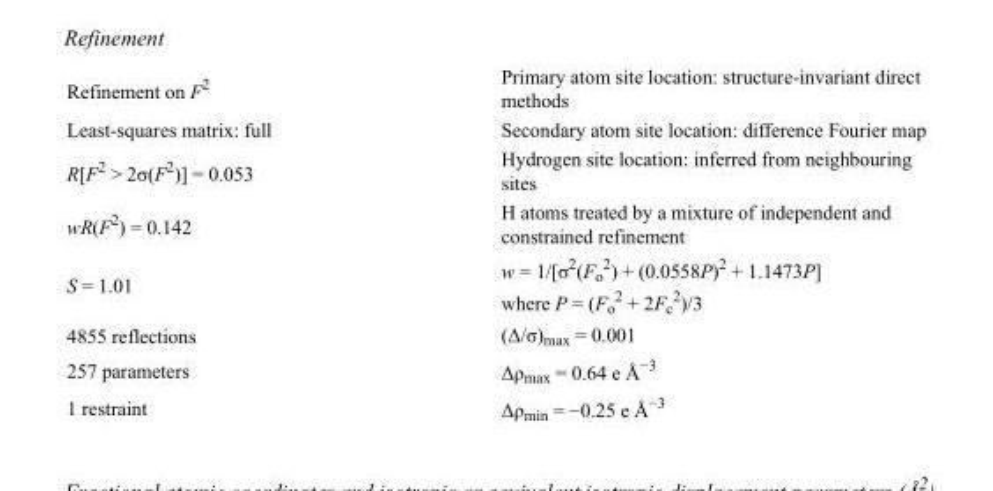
<table><tbody><tr><td>Refinement on F<sup>2</sup></td><td>Primary atom site location: structure-invariant direct methods</td></tr><tr><td>Least-squares matrix: full</td><td>Secondary atom site location: difference Fourier map</td></tr><tr><td>R[F<sup>2</sup> &gt; 2σ(F<sup>2</sup>)] = 0.053</td><td>Hydrogen site location: inferred from neighbouring sites</td></tr><tr><td>wR(F<sup>2</sup>) = 0.142</td><td>H atoms treated by a mixture of independent and constrained refinement</td></tr><tr><td>S = 1.01</td><td>w = 1/[σ<sup>2</sup>(F<sub>o</sub> <sup>2</sup>) + (0.0558P)<sup>2</sup> + 1.1473P] where P = (F<sub>o</sub> <sup>2</sup> + 2F<sub>c</sub> <sup>2</sup>)/3</td></tr><tr><td>4855 reflections</td><td>(Δ/σ)<sub>max</sub> = 0.001</td></tr><tr><td>257 parameters</td><td>Δρ<sub>max</sub> = 0.64 e Å<sup>−3</sup></td></tr><tr><td>1 restraint</td><td>Δρ<sub>min</sub> = −0.25 e Å<sup>−3</sup></td></tr></tbody></table>